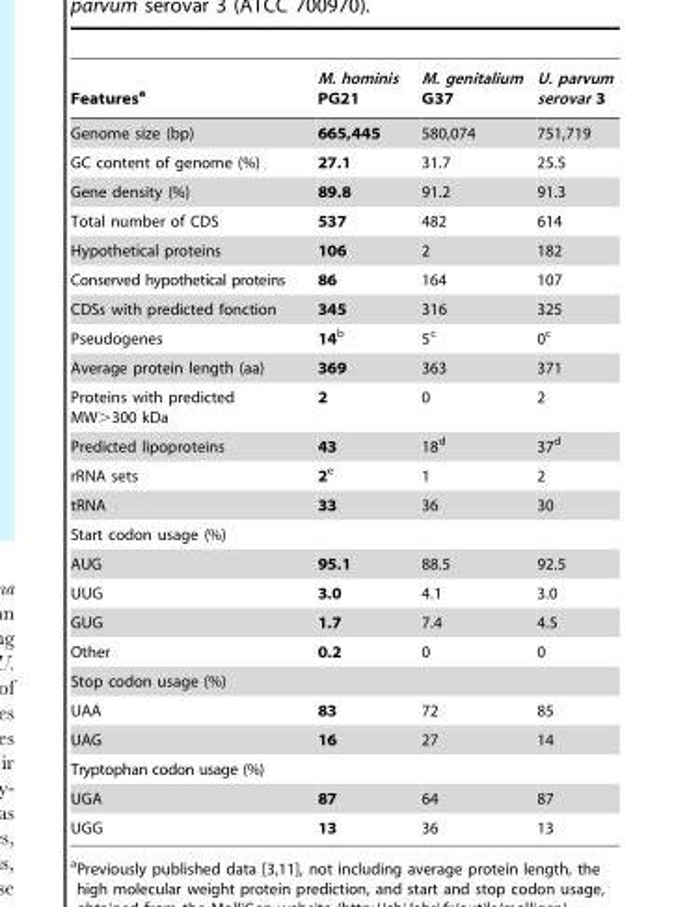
<table><thead><tr><td>Features<sup>a</sup></td><td>M. hominis PG21</td><td>M. genitalium G37</td><td>U. parvum serovar 3</td></tr></thead><tbody><tr><td>Genome size (bp)</td><td>665,445</td><td>580,074</td><td>751,719</td></tr><tr><td>GC content of genome (%)</td><td>27.1</td><td>31.7</td><td>25.5</td></tr><tr><td>Gene density (%)</td><td>89.8</td><td>91.2</td><td>91.3</td></tr><tr><td>Total number of CDS</td><td>537</td><td>482</td><td>614</td></tr><tr><td>Hypothetical proteins</td><td>106</td><td>2</td><td>182</td></tr><tr><td>Conserved hypothetical proteins</td><td>86</td><td>164</td><td>107</td></tr><tr><td>CDSs with predicted fonction</td><td>345</td><td>316</td><td>325</td></tr><tr><td>Pseudogenes</td><td>14b</td><td>5<sup>c</sup></td><td>0<sup>c</sup></td></tr><tr><td>Average protein length (aa)</td><td>369</td><td>363</td><td>371</td></tr><tr><td>Proteins with predicted MW&gt;300 kDa</td><td>2</td><td>0</td><td>2</td></tr><tr><td>Predicted lipoproteins</td><td>43</td><td>18<sup>d</sup></td><td>37<sup>d</sup></td></tr><tr><td>rRNA sets</td><td>2e</td><td>1</td><td>2</td></tr><tr><td>tRNA</td><td>33</td><td>36</td><td>30</td></tr><tr><td colspan="4">Start codon usage (%)</td></tr><tr><td>AUG</td><td>95.1</td><td>88.5</td><td>92.5</td></tr><tr><td>UUG</td><td>3.0</td><td>4.1</td><td>3.0</td></tr><tr><td>GUG</td><td>1.7</td><td>7.4</td><td>4.5</td></tr><tr><td>Other</td><td>0.2</td><td>0</td><td>0</td></tr><tr><td colspan="4">Stop codon usage (%)</td></tr><tr><td>UAA</td><td>83</td><td>72</td><td>85</td></tr><tr><td>UAG</td><td>16</td><td>27</td><td>14</td></tr><tr><td colspan="4">Tryptophan codon usage (%)</td></tr><tr><td>UGA</td><td>87</td><td>64</td><td>87</td></tr><tr><td>UGG</td><td>13</td><td>36</td><td>13</td></tr></tbody></table>